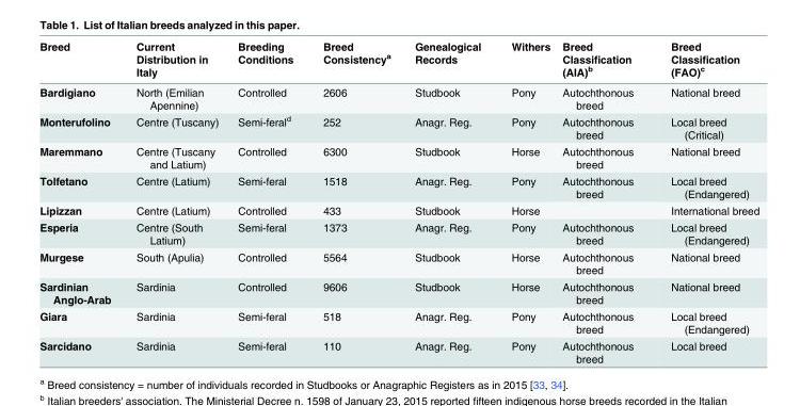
<table><thead><tr><td>Breed</td><td>Current Distribution in Italy</td><td>Breeding Conditions</td><td>Breed Consistency<sup>a</sup></td><td>Genealogical Records</td><td>Withers</td><td>Breed Classification (AIA)<sup>b</sup></td><td>Breed Classification (FAO)<sup>c</sup></td></tr></thead><tbody><tr><td>Bardigiano</td><td>North (Emilian Apennine)</td><td>Controlled</td><td>2606</td><td>Studbook</td><td>Pony</td><td>Autochthonous breed</td><td>National breed</td></tr><tr><td>Monterufolino</td><td>Centre (Tuscany)</td><td>Semi-feral<sup>d</sup></td><td>252</td><td>Anagr. Reg.</td><td>Pony</td><td>Autochthonous breed</td><td>Local breed (Critical)</td></tr><tr><td>Maremmano</td><td>Centre (Tuscany and Latium)</td><td>Controlled</td><td>6300</td><td>Studbook</td><td>Horse</td><td>Autochthonous breed</td><td>National breed</td></tr><tr><td>Tolfetano</td><td>Centre (Latium)</td><td>Semi-feral</td><td>1518</td><td>Anagr. Reg.</td><td>Pony</td><td>Autochthonous breed</td><td>Local breed (Endangered)</td></tr><tr><td>Lipizzan</td><td>Centre (Latium)</td><td>Controlled</td><td>433</td><td>Studbook</td><td>Horse</td><td></td><td>International breed</td></tr><tr><td>Esperia</td><td>Centre (South Latium)</td><td>Semi-feral</td><td>1373</td><td>Anagr. Reg.</td><td>Pony</td><td>Autochthonous breed</td><td>Local breed (Endangered)</td></tr><tr><td>Murgese</td><td>South (Apulia)</td><td>Controlled</td><td>5564</td><td>Studbook</td><td>Horse</td><td>Autochthonous breed</td><td>National breed</td></tr><tr><td>Sardinian Anglo-Arab</td><td>Sardinia</td><td>Controlled</td><td>9606</td><td>Studbook</td><td>Horse</td><td>Autochthonous breed</td><td>National breed</td></tr><tr><td>Giara</td><td>Sardinia</td><td>Semi-feral</td><td>518</td><td>Anagr. Reg.</td><td>Pony</td><td>Autochthonous breed</td><td>Local breed (Endangered)</td></tr><tr><td>Sarcidano</td><td>Sardinia</td><td>Semi-feral</td><td>110</td><td>Anagr. Reg.</td><td>Pony</td><td>Autochthonous breed</td><td>Local breed</td></tr></tbody></table>